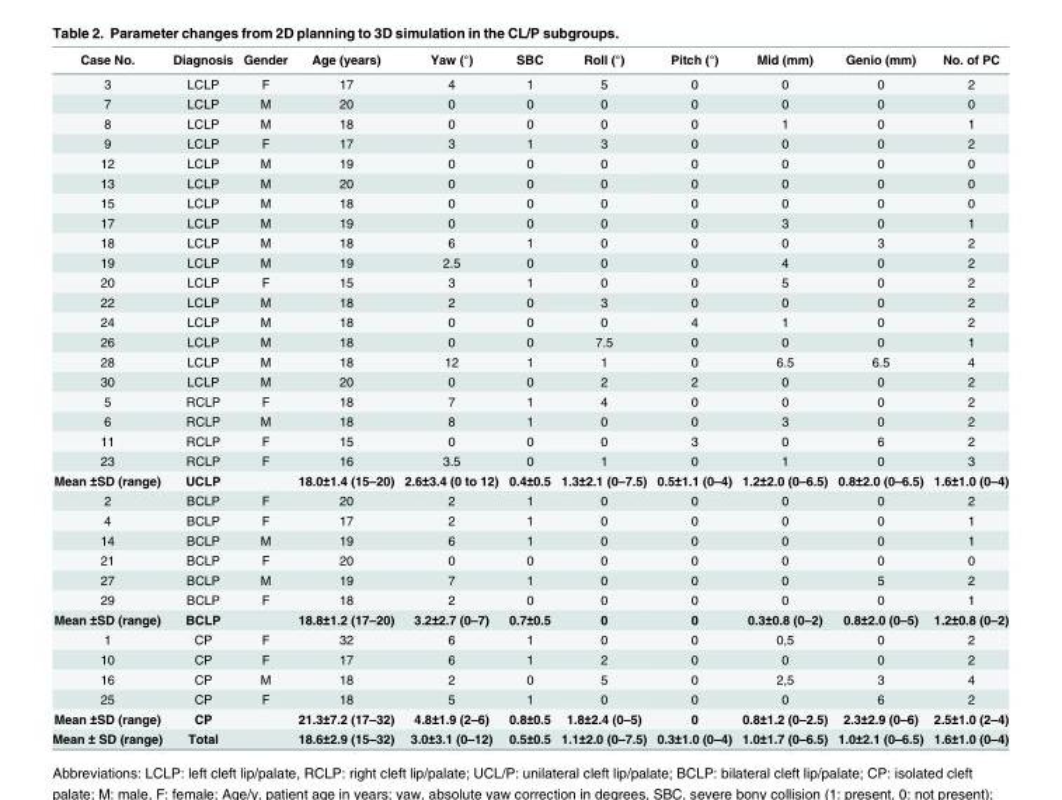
<table><thead><tr><td>Case No.</td><td>Diagnosis</td><td>Gender</td><td>Age (years)</td><td>Yaw (°)</td><td>SBC</td><td>Roll (°)</td><td>Pitch (°)</td><td>Mid (mm)</td><td>Genio (mm)</td><td>No. of PC</td></tr></thead><tbody><tr><td>3</td><td>LCLP</td><td>F</td><td>17</td><td>4</td><td>1</td><td>5</td><td>0</td><td>0</td><td>0</td><td>2</td></tr><tr><td>7</td><td>LCLP</td><td>M</td><td>20</td><td>0</td><td>0</td><td>0</td><td>0</td><td>0</td><td>0</td><td>0</td></tr><tr><td>8</td><td>LCLP</td><td>M</td><td>18</td><td>0</td><td>0</td><td>0</td><td>0</td><td>1</td><td>0</td><td>1</td></tr><tr><td>9</td><td>LCLP</td><td>F</td><td>17</td><td>3</td><td>1</td><td>3</td><td>0</td><td>0</td><td>0</td><td>2</td></tr><tr><td>12</td><td>LCLP</td><td>M</td><td>19</td><td>0</td><td>0</td><td>0</td><td>0</td><td>0</td><td>0</td><td>0</td></tr><tr><td>13</td><td>LCLP</td><td>M</td><td>20</td><td>0</td><td>0</td><td>0</td><td>0</td><td>0</td><td>0</td><td>0</td></tr><tr><td>15</td><td>LCLP</td><td>M</td><td>18</td><td>0</td><td>0</td><td>0</td><td>0</td><td>0</td><td>0</td><td>0</td></tr><tr><td>17</td><td>LCLP</td><td>M</td><td>19</td><td>0</td><td>0</td><td>0</td><td>0</td><td>3</td><td>0</td><td>1</td></tr><tr><td>18</td><td>LCLP</td><td>M</td><td>18</td><td>6</td><td>1</td><td>0</td><td>0</td><td>0</td><td>3</td><td>2</td></tr><tr><td>19</td><td>LCLP</td><td>M</td><td>19</td><td>2.5</td><td>0</td><td>0</td><td>0</td><td>4</td><td>0</td><td>2</td></tr><tr><td>20</td><td>LCLP</td><td>F</td><td>15</td><td>3</td><td>1</td><td>0</td><td>0</td><td>5</td><td>0</td><td>2</td></tr><tr><td>22</td><td>LCLP</td><td>M</td><td>18</td><td>2</td><td>0</td><td>3</td><td>0</td><td>0</td><td>0</td><td>2</td></tr><tr><td>24</td><td>LCLP</td><td>M</td><td>18</td><td>0</td><td>0</td><td>0</td><td>4</td><td>1</td><td>0</td><td>2</td></tr><tr><td>26</td><td>LCLP</td><td>M</td><td>18</td><td>0</td><td>0</td><td>7.5</td><td>0</td><td>0</td><td>0</td><td>1</td></tr><tr><td>28</td><td>LCLP</td><td>M</td><td>18</td><td>12</td><td>1</td><td>1</td><td>0</td><td>6.5</td><td>6.5</td><td>4</td></tr><tr><td>30</td><td>LCLP</td><td>M</td><td>20</td><td>0</td><td>0</td><td>2</td><td>2</td><td>0</td><td>0</td><td>2</td></tr><tr><td>5</td><td>RCLP</td><td>F</td><td>18</td><td>7</td><td>1</td><td>4</td><td>0</td><td>0</td><td>0</td><td>2</td></tr><tr><td>6</td><td>RCLP</td><td>M</td><td>18</td><td>8</td><td>1</td><td>0</td><td>0</td><td>3</td><td>0</td><td>2</td></tr><tr><td>11</td><td>RCLP</td><td>F</td><td>15</td><td>0</td><td>0</td><td>0</td><td>3</td><td>0</td><td>6</td><td>2</td></tr><tr><td>23</td><td>RCLP</td><td>F</td><td>16</td><td>3.5</td><td>0</td><td>1</td><td>0</td><td>1</td><td>0</td><td>3</td></tr><tr><td>Mean ±SD (range)</td><td>UCLP</td><td></td><td>18.0±1.4 (15–20)</td><td>2.6±3.4 (0 to 12)</td><td>0.4±0.5</td><td>1.3±2.1 (0–7.5)</td><td>0.5±1.1 (0–4)</td><td>1.2±2.0 (0–6.5)</td><td>0.8±2.0 (0–6.5)</td><td>1.6±1.0 (0–4)</td></tr><tr><td>2</td><td>BCLP</td><td>F</td><td>20</td><td>2</td><td>1</td><td>0</td><td>0</td><td>0</td><td>0</td><td>2</td></tr><tr><td>4</td><td>BCLP</td><td>F</td><td>17</td><td>2</td><td>1</td><td>0</td><td>0</td><td>0</td><td>0</td><td>1</td></tr><tr><td>14</td><td>BCLP</td><td>M</td><td>19</td><td>6</td><td>1</td><td>0</td><td>0</td><td>0</td><td>0</td><td>1</td></tr><tr><td>21</td><td>BCLP</td><td>F</td><td>20</td><td>0</td><td>0</td><td>0</td><td>0</td><td>0</td><td>0</td><td>0</td></tr><tr><td>27</td><td>BCLP</td><td>M</td><td>19</td><td>7</td><td>1</td><td>0</td><td>0</td><td>0</td><td>5</td><td>2</td></tr><tr><td>29</td><td>BCLP</td><td>F</td><td>18</td><td>2</td><td>0</td><td>0</td><td>0</td><td>0</td><td>0</td><td>1</td></tr><tr><td>Mean ±SD (range)</td><td>BCLP</td><td></td><td>18.8±1.2 (17–20)</td><td>3.2±2.7 (0–7)</td><td>0.7±0.5</td><td>0</td><td>0</td><td>0.3±0.8 (0–2)</td><td>0.8±2.0 (0–5)</td><td>1.2±0.8 (0–2)</td></tr><tr><td>1</td><td>CP</td><td>F</td><td>32</td><td>6</td><td>1</td><td>0</td><td>0</td><td>0,5</td><td>0</td><td>2</td></tr><tr><td>10</td><td>CP</td><td>F</td><td>17</td><td>6</td><td>1</td><td>2</td><td>0</td><td>0</td><td>0</td><td>2</td></tr><tr><td>16</td><td>CP</td><td>M</td><td>18</td><td>2</td><td>0</td><td>5</td><td>0</td><td>2,5</td><td>3</td><td>4</td></tr><tr><td>25</td><td>CP</td><td>F</td><td>18</td><td>5</td><td>1</td><td>0</td><td>0</td><td>0</td><td>6</td><td>2</td></tr><tr><td>Mean ±SD (range)</td><td>CP</td><td></td><td>21.3±7.2 (17–32)</td><td>4.8±1.9 (2–6)</td><td>0.8±0.5</td><td>1.8±2.4 (0–5)</td><td>0</td><td>0.8±1.2 (0–2.5)</td><td>2.3±2.9 (0–6)</td><td>2.5±1.0 (2–4)</td></tr><tr><td>Mean ± SD (range)</td><td>Total</td><td></td><td>18.6±2.9 (15–32)</td><td>3.0±3.1 (0–12)</td><td>0.5±0.5</td><td>1.1±2.0 (0–7.5)</td><td>0.3±1.0 (0–4)</td><td>1.0±1.7 (0–6.5)</td><td>1.0±2.1 (0–6.5)</td><td>1.6±1.0 (0–4)</td></tr></tbody></table>